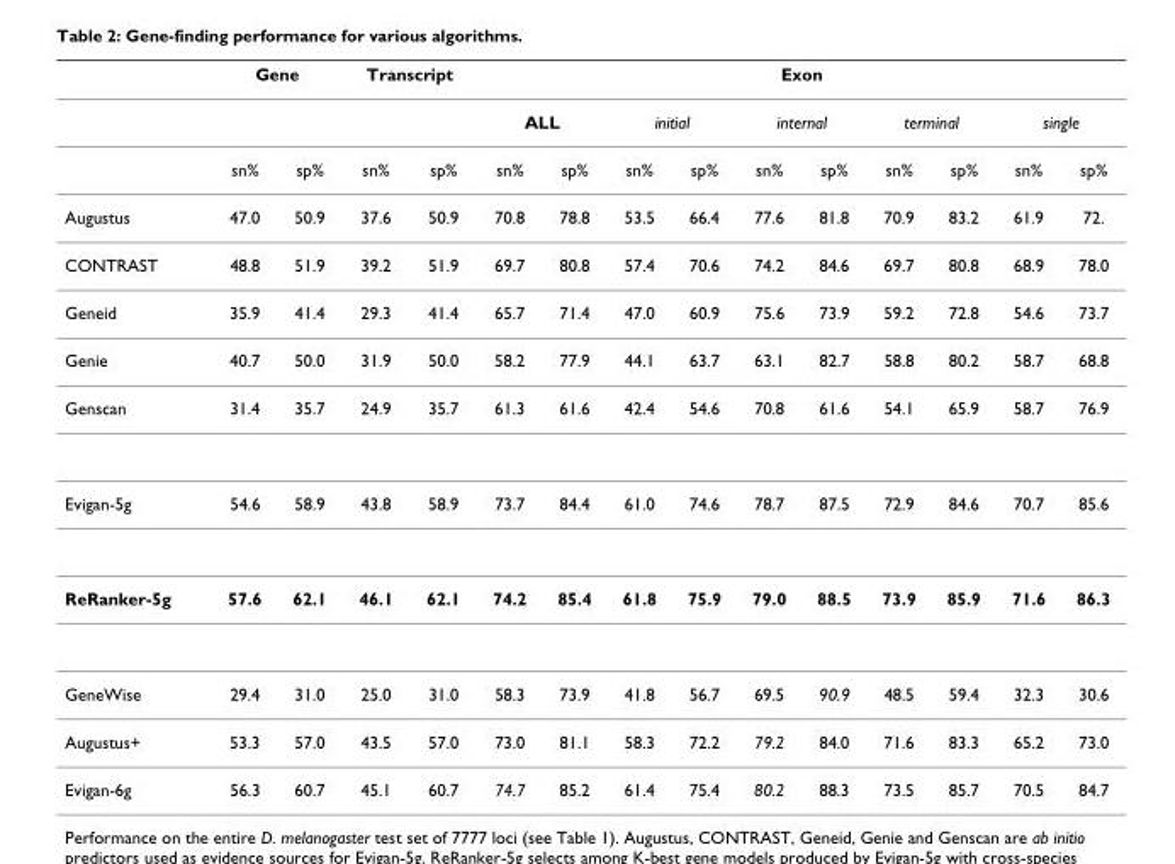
<table><thead><tr><td rowspan="3"></td><td colspan="2">Gene</td><td colspan="2">Transcript</td><td colspan="10">Exon</td></tr><tr><td rowspan="2">sn%</td><td rowspan="2">sp%</td><td rowspan="2">sn%</td><td rowspan="2">sp%</td><td colspan="2">ALL</td><td colspan="2">initial</td><td colspan="2">internal</td><td colspan="2">terminal</td><td colspan="2">single</td></tr><tr><td>sn%</td><td>sp%</td><td>sn%</td><td>sp%</td><td>sn%</td><td>sp%</td><td>sn%</td><td>sp%</td><td>sn%</td><td>sp%</td></tr></thead><tbody><tr><td>Augustus</td><td>47.0</td><td>50.9</td><td>37.6</td><td>50.9</td><td>70.8</td><td>78.8</td><td>53.5</td><td>66.4</td><td>77.6</td><td>81.8</td><td>70.9</td><td>83.2</td><td>61.9</td><td>72.</td></tr><tr><td>CONTRAST</td><td>48.8</td><td>51.9</td><td>39.2</td><td>51.9</td><td>69.7</td><td>80.8</td><td>57.4</td><td>70.6</td><td>74.2</td><td>84.6</td><td>69.7</td><td>80.8</td><td>68.9</td><td>78.0</td></tr><tr><td>Geneid</td><td>35.9</td><td>41.4</td><td>29.3</td><td>41.4</td><td>65.7</td><td>71.4</td><td>47.0</td><td>60.9</td><td>75.6</td><td>73.9</td><td>59.2</td><td>72.8</td><td>54.6</td><td>73.7</td></tr><tr><td>Genie</td><td>40.7</td><td>50.0</td><td>31.9</td><td>50.0</td><td>58.2</td><td>77.9</td><td>44.1</td><td>63.7</td><td>63.1</td><td>82.7</td><td>58.8</td><td>80.2</td><td>58.7</td><td>68.8</td></tr><tr><td>Genscan</td><td>31.4</td><td>35.7</td><td>24.9</td><td>35.7</td><td>61.3</td><td>61.6</td><td>42.4</td><td>54.6</td><td>70.8</td><td>61.6</td><td>54.1</td><td>65.9</td><td>58.7</td><td>76.9</td></tr><tr><td>Evigan-5g</td><td>54.6</td><td>58.9</td><td>43.8</td><td>58.9</td><td>73.7</td><td>84.4</td><td>61.0</td><td>74.6</td><td>78.7</td><td>87.5</td><td>72.9</td><td>84.6</td><td>70.7</td><td>85.6</td></tr><tr><td>ReRanker-5g</td><td>57.6</td><td>62.1</td><td>46.1</td><td>62.1</td><td>74.2</td><td>85.4</td><td>61.8</td><td>75.9</td><td>79.0</td><td>88.5</td><td>73.9</td><td>85.9</td><td>71.6</td><td>86.3</td></tr><tr><td>GeneWise</td><td>29.4</td><td>31.0</td><td>25.0</td><td>31.0</td><td>58.3</td><td>73.9</td><td>41.8</td><td>56.7</td><td>69.5</td><td>90.9</td><td>48.5</td><td>59.4</td><td>32.3</td><td>30.6</td></tr><tr><td>Augustus+</td><td>53.3</td><td>57.0</td><td>43.5</td><td>57.0</td><td>73.0</td><td>81.1</td><td>58.3</td><td>72.2</td><td>79.2</td><td>84.0</td><td>71.6</td><td>83.3</td><td>65.2</td><td>73.0</td></tr><tr><td>Evigan-6g</td><td>56.3</td><td>60.7</td><td>45.1</td><td>60.7</td><td>74.7</td><td>85.2</td><td>61.4</td><td>75.4</td><td>80.2</td><td>88.3</td><td>73.5</td><td>85.7</td><td>70.5</td><td>84.7</td></tr></tbody></table>